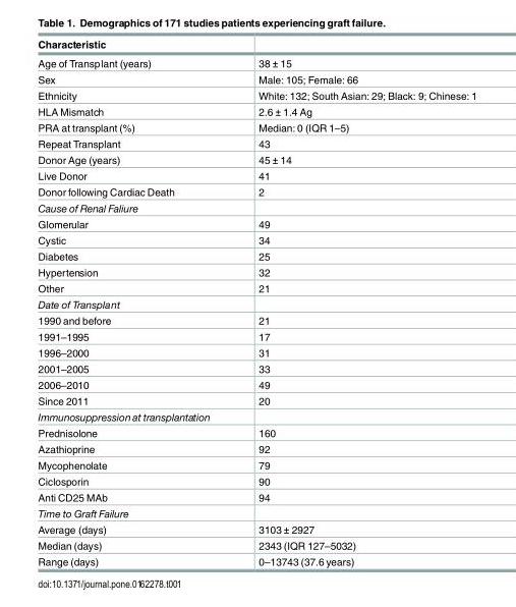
<table><thead><tr><td>Characteristic</td><td></td></tr></thead><tbody><tr><td>Age of Transplant (years)</td><td>38 ± 15</td></tr><tr><td>Sex</td><td>Male: 105; Female: 66</td></tr><tr><td>Ethnicity</td><td>White: 132; South Asian: 29; Black: 9; Chinese: 1</td></tr><tr><td>HLA Mismatch</td><td>2.6 ± 1.4 Ag</td></tr><tr><td>PRA at transplant (%)</td><td>Median: 0 (IQR 1–5)</td></tr><tr><td>Repeat Transplant</td><td>43</td></tr><tr><td>Donor Age (years)</td><td>45 ± 14</td></tr><tr><td>Live Donor</td><td>41</td></tr><tr><td>Donor following Cardiac Death</td><td>2</td></tr><tr><td colspan="2">Cause of Renal Faliure</td></tr><tr><td>Glomerular</td><td>49</td></tr><tr><td>Cystic</td><td>34</td></tr><tr><td>Diabetes</td><td>25</td></tr><tr><td>Hypertension</td><td>32</td></tr><tr><td>Other</td><td>21</td></tr><tr><td colspan="2">Date of Transplant</td></tr><tr><td>1990 and before</td><td>21</td></tr><tr><td>1991–1995</td><td>17</td></tr><tr><td>1996–2000</td><td>31</td></tr><tr><td>2001–2005</td><td>33</td></tr><tr><td>2006–2010</td><td>49</td></tr><tr><td>Since 2011</td><td>20</td></tr><tr><td colspan="2">Immunosuppression at transplantation</td></tr><tr><td>Prednisolone</td><td>160</td></tr><tr><td>Azathioprine</td><td>92</td></tr><tr><td>Mycophenolate</td><td>79</td></tr><tr><td>Ciclosporin</td><td>90</td></tr><tr><td>Anti CD25 MAb</td><td>94</td></tr><tr><td colspan="2">Time to Graft Failure</td></tr><tr><td>Average (days)</td><td>3103 ± 2927</td></tr><tr><td>Median (days)</td><td>2343 (IQR 127–5032)</td></tr><tr><td>Range (days)</td><td>0–13743 (37.6 years)</td></tr></tbody></table>